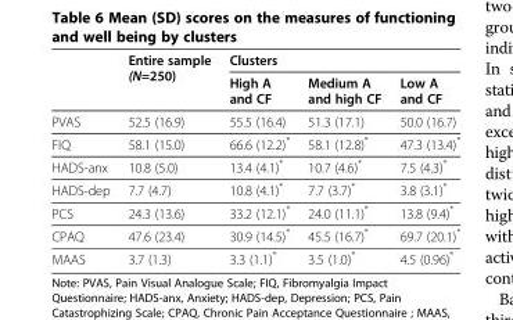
<table><thead><tr><td rowspan="2"></td><td rowspan="2">Entire sample (N=250)</td><td colspan="3">Clusters</td></tr><tr><td>High A and CF</td><td>Medium A and high CF</td><td>Low A and CF</td></tr></thead><tbody><tr><td>PVAS</td><td>52.5 (16.9)</td><td>55.5 (16.4)</td><td>51.3 (17.1)</td><td>50.0 (16.7)</td></tr><tr><td>FIQ</td><td>58.1 (15.0)</td><td>66.6 (12.2)*</td><td>58.1 (12.8)*</td><td>47.3 (13.4)*</td></tr><tr><td>HADS-anx</td><td>10.8 (5.0)</td><td>13.4 (4.1)*</td><td>10.7 (4.6)*</td><td>7.5 (4.3)*</td></tr><tr><td>HADS-dep</td><td>7.7 (4.7)</td><td>10.8 (4.1)*</td><td>7.7 (3.7)*</td><td>3.8 (3.1)*</td></tr><tr><td>PCS</td><td>24.3 (13.6)</td><td>33.2 (12.1)*</td><td>24.0 (11.1)*</td><td>13.8 (9.4)*</td></tr><tr><td>CPAQ</td><td>47.6 (23.4)</td><td>30.9 (14.5)*</td><td>45.5 (16.7)*</td><td>69.7 (20.1)*</td></tr><tr><td>MAAS</td><td>3.7 (1.3)</td><td>3.3 (1.1)*</td><td>3.5 (1.0)*</td><td>4.5 (0.96)*</td></tr></tbody></table>